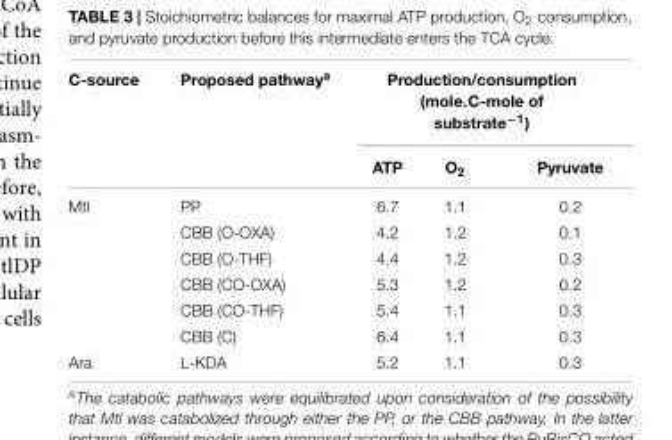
<table><thead><tr><td rowspan="2">C-source</td><td rowspan="2">Proposed pathway<sup>a</sup></td><td colspan="3">Production/consumption (mole.C-mole of substrate<sup>−1</sup>)</td></tr><tr><td>ATP</td><td>O<sub>2</sub></td><td>Pyruvate</td></tr></thead><tbody><tr><td rowspan="6">Mtl</td><td>PP</td><td>6.7</td><td>1.1</td><td>0.2</td></tr><tr><td>CBB (O-OXA)</td><td>4.2</td><td>1.2</td><td>0.1</td></tr><tr><td>CBB (O-THF)</td><td>4.4</td><td>1.2</td><td>0.3</td></tr><tr><td>CBB (CO-OXA)</td><td>5.3</td><td>1.2</td><td>0.2</td></tr><tr><td>CBB (CO-THF)</td><td>5.4</td><td>1.1</td><td>0.3</td></tr><tr><td>CBB (C)</td><td>6.4</td><td>1.1</td><td>0.3</td></tr><tr><td>Ara</td><td>L-KDA</td><td>5.2</td><td>1.1</td><td>0.3</td></tr></tbody></table>